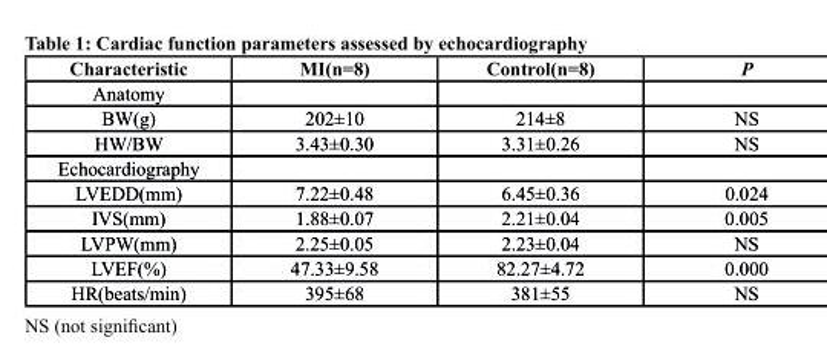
<table><thead><tr><td>characteristic</td><td>MI(n=8)</td><td>control(n=8)</td><td>P</td></tr></thead><tbody><tr><td colspan="4">Anatomy</td></tr><tr><td>BW(g)</td><td>202±10</td><td>214±8</td><td>NS</td></tr><tr><td>HW/BW</td><td>3.43±0.30</td><td>3.31±0.26</td><td>NS</td></tr><tr><td colspan="4">Echocardiography</td></tr><tr><td>LVEDD(mm)</td><td>7.22±0.48</td><td>6.45±0.36</td><td>0.024</td></tr><tr><td>IVS(mm)</td><td>1.88±0.07</td><td>2.21±0.04</td><td>0.005</td></tr><tr><td>LVPW(mm)</td><td>2.25±0.05</td><td>2.23±0.04</td><td>NS</td></tr><tr><td>LVEF(%)</td><td>47.33±9.58</td><td>82.27±4.72</td><td>0.000</td></tr><tr><td>HR(beats/min)</td><td>395±68</td><td>381±55</td><td>NS</td></tr></tbody></table>